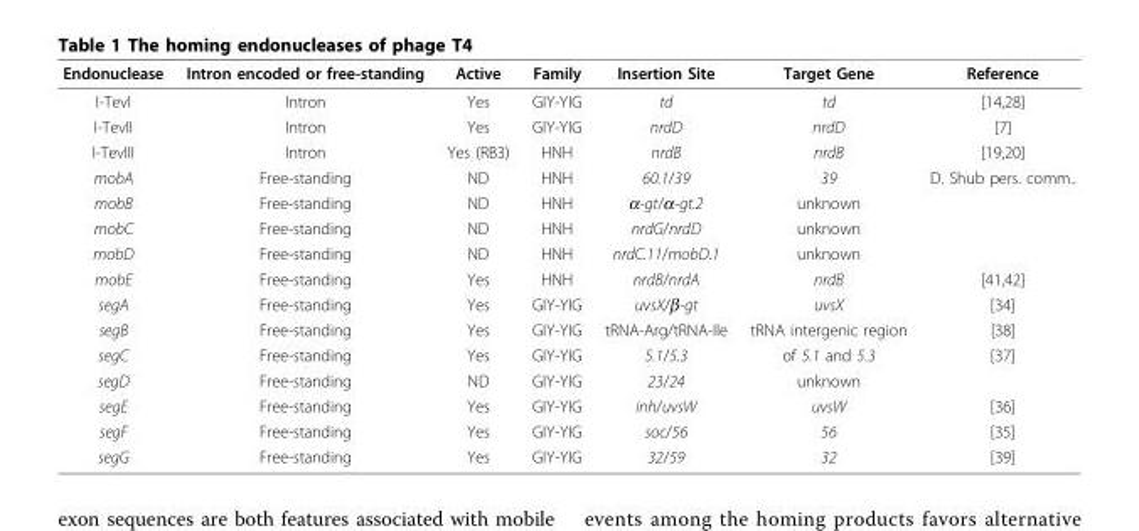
<table><thead><tr><td>Endonuclease</td><td>Intron encoded or free-standing</td><td>Active</td><td>Family</td><td>Insertion Site</td><td>Target Gene</td><td>Reference</td></tr></thead><tbody><tr><td>I-TevI</td><td>Intron</td><td>Yes</td><td>GIY-YIG</td><td>td</td><td>td</td><td>[14,28]</td></tr><tr><td>I-TevII</td><td>Intron</td><td>Yes</td><td>GIY-YIG</td><td>nrdD</td><td>nrdD</td><td>[7]</td></tr><tr><td>I-TevIII</td><td>Intron</td><td>Yes (RB3)</td><td>HNH</td><td>nrdB</td><td>nrdB</td><td>[19,20]</td></tr><tr><td>mobA</td><td>Free-standing</td><td>ND</td><td>HNH</td><td>60.1/39</td><td>39</td><td>D. Shub pers. comm..</td></tr><tr><td>mobB</td><td>Free-standing</td><td>ND</td><td>HNH</td><td>α-gt/α-gt.2</td><td>unknown</td><td></td></tr><tr><td>mobC</td><td>Free-standing</td><td>ND</td><td>HNH</td><td>nrdG/nrdD</td><td>unknown</td><td></td></tr><tr><td>mobD</td><td>Free-standing</td><td>ND</td><td>HNH</td><td>nrdC.11/mobD.1</td><td>unknown</td><td></td></tr><tr><td>mobE</td><td>Free-standing</td><td>Yes</td><td>HNH</td><td>nrdB/nrdA</td><td>nrdB</td><td>[41,42]</td></tr><tr><td>segA</td><td>Free-standing</td><td>Yes</td><td>GIY-YIG</td><td>uvsX/β-gt</td><td>uvsX</td><td>[34]</td></tr><tr><td>segB</td><td>Free-standing</td><td>Yes</td><td>GIY-YIG</td><td>tRNA-Arg/tRNA-Ile</td><td>tRNA intergenic region</td><td>[38]</td></tr><tr><td>segC</td><td>Free-standing</td><td>Yes</td><td>GIY-YIG</td><td>5.1/5.3</td><td>of 5.1 and 5.3</td><td>[37]</td></tr><tr><td>segD</td><td>Free-standing</td><td>ND</td><td>GIY-YIG</td><td>23/24</td><td>unknown</td><td></td></tr><tr><td>segE</td><td>Free-standing</td><td>Yes</td><td>GIY-YIG</td><td>inh/uvsW</td><td>uvsW</td><td>[36]</td></tr><tr><td>segF</td><td>Free-standing</td><td>Yes</td><td>GIY-YIG</td><td>soc/56</td><td>56</td><td>[35]</td></tr><tr><td>segG</td><td>Free-standing</td><td>Yes</td><td>GIY-YIG</td><td>32/59</td><td>32</td><td>[39]</td></tr></tbody></table>